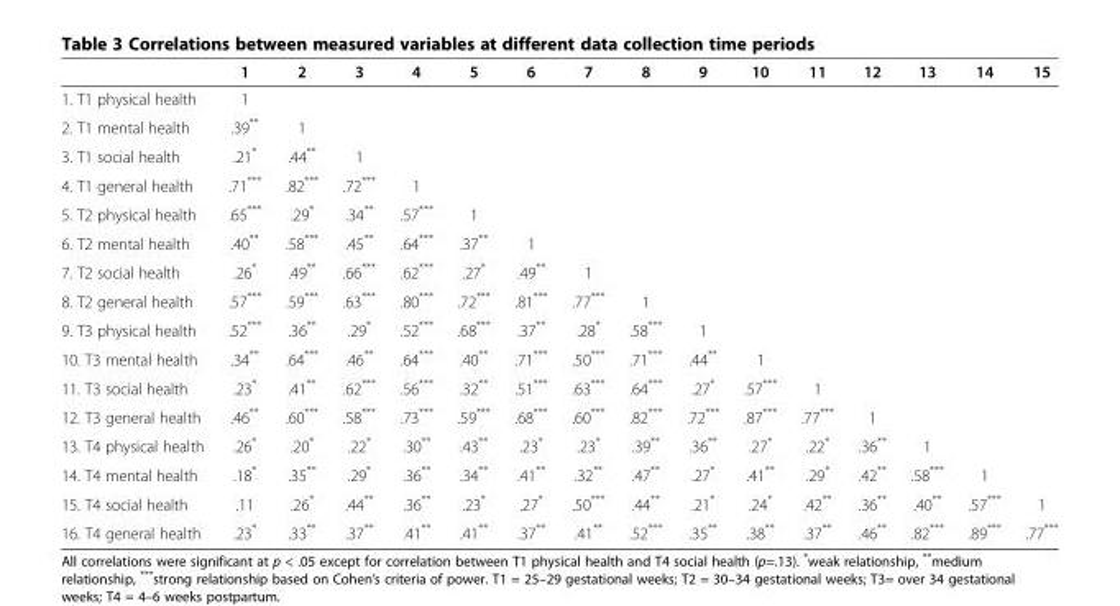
<table><thead><tr><td></td><td>1</td><td>2</td><td>3</td><td>4</td><td>5</td><td>6</td><td>7</td><td>8</td><td>9</td><td>10</td><td>11</td><td>12</td><td>13</td><td>14</td><td>15</td></tr></thead><tbody><tr><td>1. T1 physical health</td><td>1</td><td></td><td></td><td></td><td></td><td></td><td></td><td></td><td></td><td></td><td></td><td></td><td></td><td></td><td></td></tr><tr><td>2. T1 mental health</td><td>.39**</td><td>1</td><td></td><td></td><td></td><td></td><td></td><td></td><td></td><td></td><td></td><td></td><td></td><td></td><td></td></tr><tr><td>3. T1 social health</td><td>.21*</td><td>.44**</td><td>1</td><td></td><td></td><td></td><td></td><td></td><td></td><td></td><td></td><td></td><td></td><td></td><td></td></tr><tr><td>4. T1 general health</td><td>.71***</td><td>.82***</td><td>.72***</td><td>1</td><td></td><td></td><td></td><td></td><td></td><td></td><td></td><td></td><td></td><td></td><td></td></tr><tr><td>5. T2 physical health</td><td>.65***</td><td>.29*</td><td>.34**</td><td>.57***</td><td>1</td><td></td><td></td><td></td><td></td><td></td><td></td><td></td><td></td><td></td><td></td></tr><tr><td>6. T2 mental health</td><td>.40**</td><td>.58***</td><td>.45**</td><td>.64***</td><td>.37**</td><td>1</td><td></td><td></td><td></td><td></td><td></td><td></td><td></td><td></td><td></td></tr><tr><td>7. T2 social health</td><td>.26*</td><td>.49**</td><td>.66***</td><td>.62***</td><td>.27*</td><td>.49**</td><td>1</td><td></td><td></td><td></td><td></td><td></td><td></td><td></td><td></td></tr><tr><td>8. T2 general health</td><td>.57***</td><td>.59***</td><td>.63***</td><td>.80***</td><td>.72***</td><td>.81***</td><td>.77***</td><td>1</td><td></td><td></td><td></td><td></td><td></td><td></td><td></td></tr><tr><td>9. T3 physical health</td><td>.52***</td><td>.36**</td><td>.29*</td><td>.52***</td><td>.68***</td><td>.37**</td><td>.28*</td><td>.58***</td><td>1</td><td></td><td></td><td></td><td></td><td></td><td></td></tr><tr><td>10. T3 mental health</td><td>.34**</td><td>.64***</td><td>.46**</td><td>.64***</td><td>.40**</td><td>.71***</td><td>.50***</td><td>.71***</td><td>.44**</td><td>1</td><td></td><td></td><td></td><td></td><td></td></tr><tr><td>11. T3 social health</td><td>.23*</td><td>.41**</td><td>.62***</td><td>.56***</td><td>.32**</td><td>.51***</td><td>.63***</td><td>.64***</td><td>.27*</td><td>.57***</td><td>1</td><td></td><td></td><td></td><td></td></tr><tr><td>12. T3 general health</td><td>.46**</td><td>.60***</td><td>.58***</td><td>.73***</td><td>.59***</td><td>.68***</td><td>.60***</td><td>.82***</td><td>.72***</td><td>.87***</td><td>.77***</td><td>1</td><td></td><td></td><td></td></tr><tr><td>13. T4 physical health</td><td>.26*</td><td>.20*</td><td>.22*</td><td>.30**</td><td>.43**</td><td>.23*</td><td>.23*</td><td>.39**</td><td>.36**</td><td>.27*</td><td>.22*</td><td>.36**</td><td>1</td><td></td><td></td></tr><tr><td>14. T4 mental health</td><td>.18*</td><td>.35**</td><td>.29*</td><td>.36**</td><td>.34**</td><td>.41**</td><td>.32**</td><td>.47**</td><td>.27*</td><td>.41**</td><td>.29*</td><td>.42**</td><td>.58***</td><td>1</td><td></td></tr><tr><td>15. T4 social health</td><td>.11</td><td>.26*</td><td>.44**</td><td>.36**</td><td>.23*</td><td>.27*</td><td>.50***</td><td>.44**</td><td>.21*</td><td>.24*</td><td>.42**</td><td>.36**</td><td>.40**</td><td>.57***</td><td>1</td></tr><tr><td>16. T4 general health</td><td>.23*</td><td>.33**</td><td>.37**</td><td>.41**</td><td>.41**</td><td>.37**</td><td>.41**</td><td>.52***</td><td>.35**</td><td>.38**</td><td>.37**</td><td>.46**</td><td>.82***</td><td>.89***</td><td>.77***</td></tr></tbody></table>